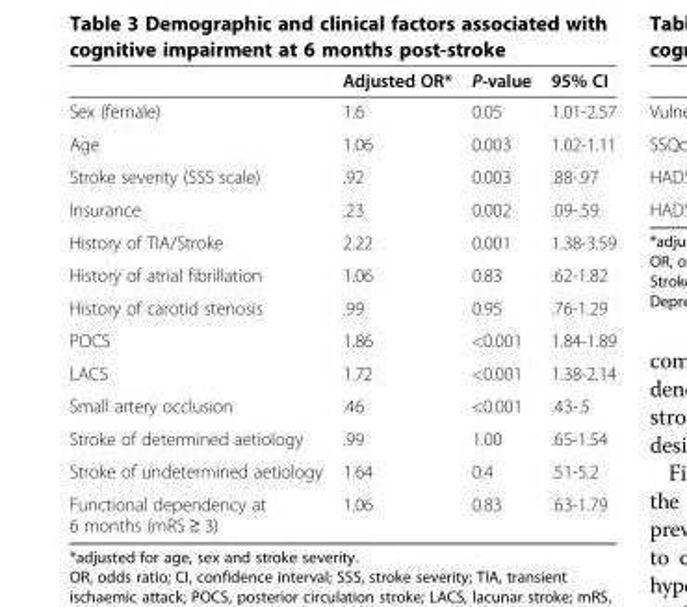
<table><thead><tr><td></td><td>Adjusted OR*</td><td>P-value</td><td>95% CI</td></tr></thead><tbody><tr><td>Sex (female)</td><td>1.6</td><td>0.05</td><td>1.01-2.57</td></tr><tr><td>Age</td><td>1.06</td><td>0.003</td><td>1.02-1.11</td></tr><tr><td>Stroke severity (SSS scale)</td><td>.92</td><td>0.003</td><td>.88-.97</td></tr><tr><td>Insurance</td><td>.23</td><td>0.002</td><td>.09-.59</td></tr><tr><td>History of TIA/Stroke</td><td>2.22</td><td>0.001</td><td>1.38-3.59</td></tr><tr><td>History of atrial fibrillation</td><td>1.06</td><td>0.83</td><td>.62-1.82</td></tr><tr><td>History of carotid stenosis</td><td>.99</td><td>0.95</td><td>.76-1.29</td></tr><tr><td>POCS</td><td>1.86</td><td>&lt;0.001</td><td>1.84-1.89</td></tr><tr><td>LACS</td><td>1.72</td><td>&lt;0.001</td><td>1.38-2.14</td></tr><tr><td>Small artery occlusion</td><td>.46</td><td>&lt;0.001</td><td>.43-.5</td></tr><tr><td>Stroke of determined aetiology</td><td>.99</td><td>1.00</td><td>.65-1.54</td></tr><tr><td>Stroke of undetermined aetiology</td><td>1.64</td><td>0.4</td><td>.51-5.2</td></tr><tr><td>Functional dependency at 6 months (mRS ≥ 3)</td><td>1.06</td><td>0.83</td><td>.63-1.79</td></tr></tbody></table>